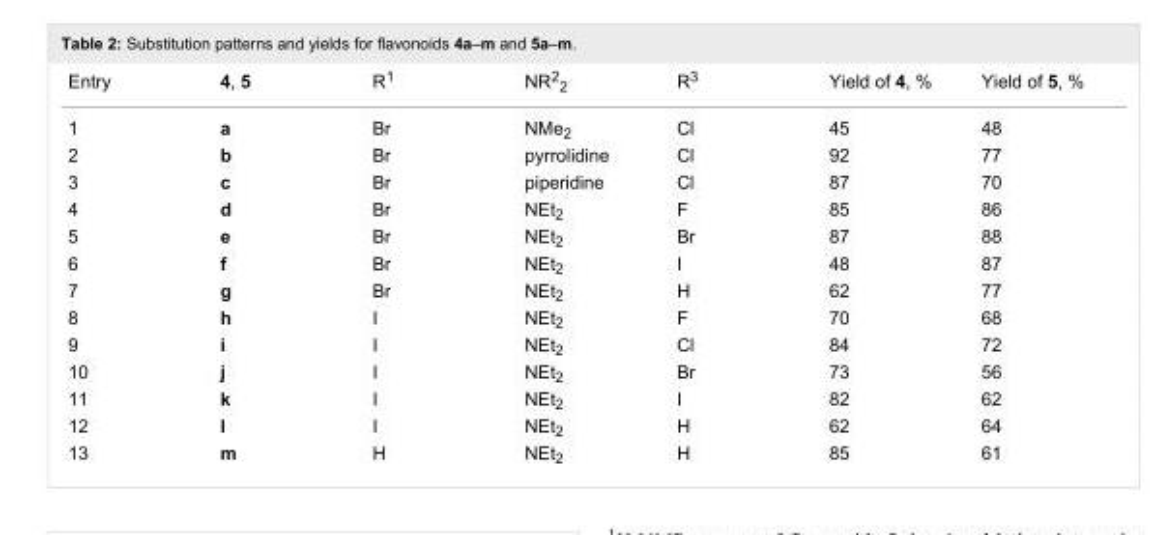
<table><tbody><tr><td>Entry</td><td>4, 5</td><td>R<sup>1</sup></td><td>NR<sup>2</sup><sub>2</sub></td><td>R<sup>3</sup></td><td>Yield of 4, %</td><td>Yield of 5, %</td></tr><tr><td>1</td><td>a</td><td>Br</td><td>NMe<sub>2</sub></td><td>Cl</td><td>45</td><td>48</td></tr><tr><td>2</td><td>b</td><td>Br</td><td>pyrrolidine</td><td>Cl</td><td>92</td><td>77</td></tr><tr><td>3</td><td>c</td><td>Br</td><td>piperidine</td><td>Cl</td><td>87</td><td>70</td></tr><tr><td>4</td><td>d</td><td>Br</td><td>NEt<sub>2</sub></td><td>F</td><td>85</td><td>86</td></tr><tr><td>5</td><td>e</td><td>Br</td><td>NEt<sub>2</sub></td><td>Br</td><td>87</td><td>88</td></tr><tr><td>6</td><td>f</td><td>Br</td><td>NEt<sub>2</sub></td><td>I</td><td>48</td><td>87</td></tr><tr><td>7</td><td>g</td><td>Br</td><td>NEt<sub>2</sub></td><td>H</td><td>62</td><td>77</td></tr><tr><td>8</td><td>h</td><td>I</td><td>NEt<sub>2</sub></td><td>F</td><td>70</td><td>68</td></tr><tr><td>9</td><td>i</td><td>I</td><td>NEt<sub>2</sub></td><td>Cl</td><td>84</td><td>72</td></tr><tr><td>10</td><td>j</td><td>I</td><td>NEt<sub>2</sub></td><td>Br</td><td>73</td><td>56</td></tr><tr><td>11</td><td>k</td><td>I</td><td>NEt<sub>2</sub></td><td>I</td><td>82</td><td>62</td></tr><tr><td>12</td><td>l</td><td>I</td><td>NEt<sub>2</sub></td><td>H</td><td>62</td><td>64</td></tr><tr><td>13</td><td>m</td><td>H</td><td>NEt<sub>2</sub></td><td>H</td><td>85</td><td>61</td></tr></tbody></table>